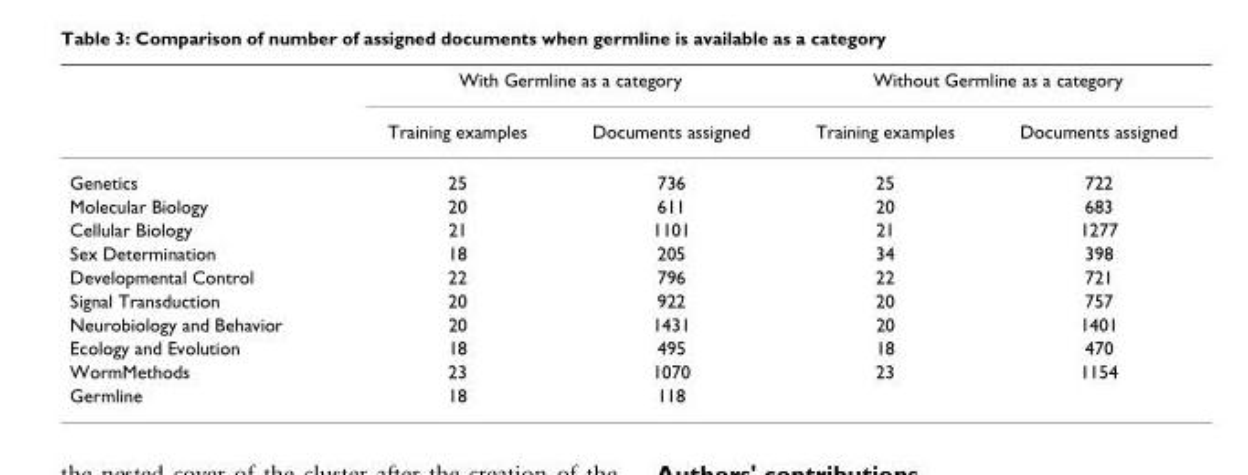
<table><thead><tr><td rowspan="2"></td><td colspan="2">With Germline as a category</td><td colspan="2">Without Germline as a category</td></tr><tr><td>Training examples</td><td>Documents assigned</td><td>Training examples</td><td>Documents assigned</td></tr></thead><tbody><tr><td>Genetics</td><td>25</td><td>736</td><td>25</td><td>722</td></tr><tr><td>Molecular Biology</td><td>20</td><td>611</td><td>20</td><td>683</td></tr><tr><td>Cellular Biology</td><td>21</td><td>1101</td><td>21</td><td>1277</td></tr><tr><td>Sex Determination</td><td>18</td><td>205</td><td>34</td><td>398</td></tr><tr><td>Developmental Control</td><td>22</td><td>796</td><td>22</td><td>721</td></tr><tr><td>Signal Transduction</td><td>20</td><td>922</td><td>20</td><td>757</td></tr><tr><td>Neurobiology and Behavior</td><td>20</td><td>1431</td><td>20</td><td>1401</td></tr><tr><td>Ecology and Evolution</td><td>18</td><td>495</td><td>18</td><td>470</td></tr><tr><td>WormMethods</td><td>23</td><td>1070</td><td>23</td><td>1154</td></tr><tr><td>Germline</td><td>18</td><td>118</td><td></td><td></td></tr></tbody></table>